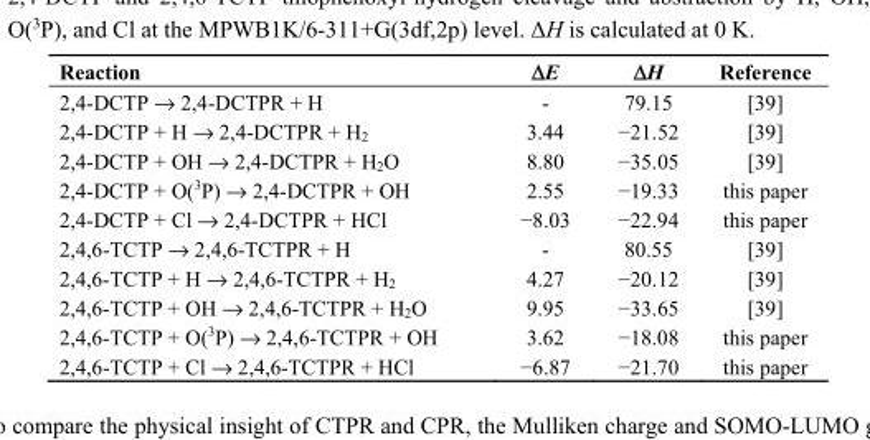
<table><thead><tr><td>Reaction</td><td>ΔE</td><td>ΔH</td><td>Reference</td></tr></thead><tbody><tr><td>2,4-DCTP → 2,4-DCTPR + H</td><td>-</td><td>79.15</td><td>[39]</td></tr><tr><td>2,4-DCTP + H → 2,4-DCTPR + H<sub>2</sub></td><td>3.44</td><td>−21.52</td><td>[39]</td></tr><tr><td>2,4-DCTP + OH → 2,4-DCTPR + H<sub>2</sub>O</td><td>8.80</td><td>−35.05</td><td>[39]</td></tr><tr><td>2,4-DCTP + O(<sup>3</sup>P) → 2,4-DCTPR + OH</td><td>2.55</td><td>−19.33</td><td>this paper</td></tr><tr><td>2,4-DCTP + Cl → 2,4-DCTPR + HCl</td><td>−8.03</td><td>−22.94</td><td>this paper</td></tr><tr><td>2,4,6-TCTP → 2,4,6-TCTPR + H</td><td>-</td><td>80.55</td><td>[39]</td></tr><tr><td>2,4,6-TCTP + H → 2,4,6-TCTPR + H<sub>2</sub></td><td>4.27</td><td>−20.12</td><td>[39]</td></tr><tr><td>2,4,6-TCTP + OH → 2,4,6-TCTPR + H<sub>2</sub>O</td><td>9.95</td><td>−33.65</td><td>[39]</td></tr><tr><td>2,4,6-TCTP + O(<sup>3</sup>P) → 2,4,6-TCTPR + OH</td><td>3.62</td><td>−18.08</td><td>this paper</td></tr><tr><td>2,4,6-TCTP + Cl → 2,4,6-TCTPR + HCl</td><td>−6.87</td><td>−21.70</td><td>this paper</td></tr></tbody></table>